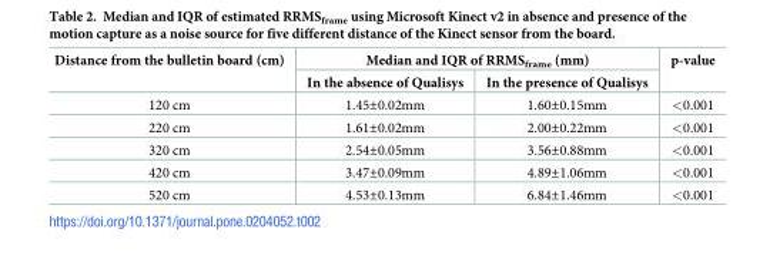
<table><thead><tr><td rowspan="2">Distance from the bulletin board (cm)</td><td colspan="2">Median and IQR of RRMS<sub>frame</sub> (mm)</td><td rowspan="2">p-value</td></tr><tr><td>In the absence of Qualisys</td><td>In the presence of Qualisys</td></tr></thead><tbody><tr><td>120 cm</td><td>1.45±0.02mm</td><td>1.60±0.15mm</td><td>&lt;0.001</td></tr><tr><td>220 cm</td><td>1.61±0.02mm</td><td>2.00±0.22mm</td><td>&lt;0.001</td></tr><tr><td>320 cm</td><td>2.54±0.05mm</td><td>3.56±0.88mm</td><td>&lt;0.001</td></tr><tr><td>420 cm</td><td>3.47±0.09mm</td><td>4.89±1.06mm</td><td>&lt;0.001</td></tr><tr><td>520 cm</td><td>4.53±0.13mm</td><td>6.84±1.46mm</td><td>&lt;0.001</td></tr></tbody></table>